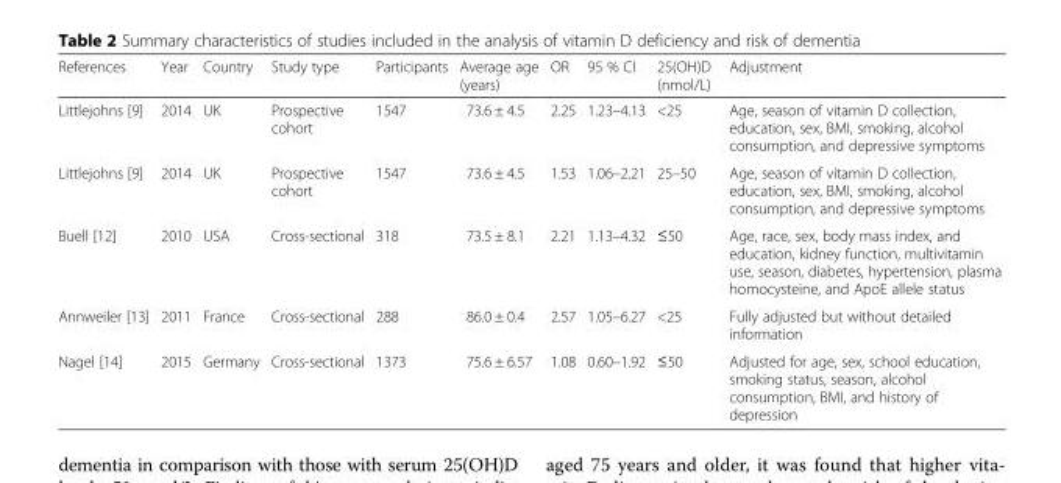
<table><thead><tr><td>References</td><td>Year</td><td>Country</td><td>Study type</td><td>Participants</td><td>Average age (years)</td><td>OR</td><td>95 % CI</td><td>25(OH)D (nmol/L)</td><td>Adjustment</td></tr></thead><tbody><tr><td>Littlejohns [9]</td><td>2014</td><td>UK</td><td>Prospective cohort</td><td>1547</td><td>73.6 ± 4.5</td><td>2.25</td><td>1.23–4.13</td><td>&lt;25</td><td>Age, season of vitamin D collection, education, sex, BMI, smoking, alcohol consumption, and depressive symptoms</td></tr><tr><td>Littlejohns [9]</td><td>2014</td><td>UK</td><td>Prospective cohort</td><td>1547</td><td>73.6 ± 4.5</td><td>1.53</td><td>1.06–2.21</td><td>25–50</td><td>Age, season of vitamin D collection, education, sex, BMI, smoking, alcohol consumption, and depressive symptoms</td></tr><tr><td>Buell [12]</td><td>2010</td><td>USA</td><td>Cross-sectional</td><td>318</td><td>73.5 ± 8.1</td><td>2.21</td><td>1.13–4.32</td><td>≤50</td><td>Age, race, sex, body mass index, and education, kidney function, multivitamin use, season, diabetes, hypertension, plasma homocysteine, and ApoE allele status</td></tr><tr><td>Annweiler [13]</td><td>2011</td><td>France</td><td>Cross-sectional</td><td>288</td><td>86.0 ± 0.4</td><td>2.57</td><td>1.05–6.27</td><td>&lt;25</td><td>Fully adjusted but without detailed information</td></tr><tr><td>Nagel [14]</td><td>2015</td><td>Germany</td><td>Cross-sectional</td><td>1373</td><td>75.6 ± 6.57</td><td>1.08</td><td>0.60–1.92</td><td>≤50</td><td>Adjusted for age, sex, school education, smoking status, season, alcohol consumption, BMI, and history of depression</td></tr></tbody></table>